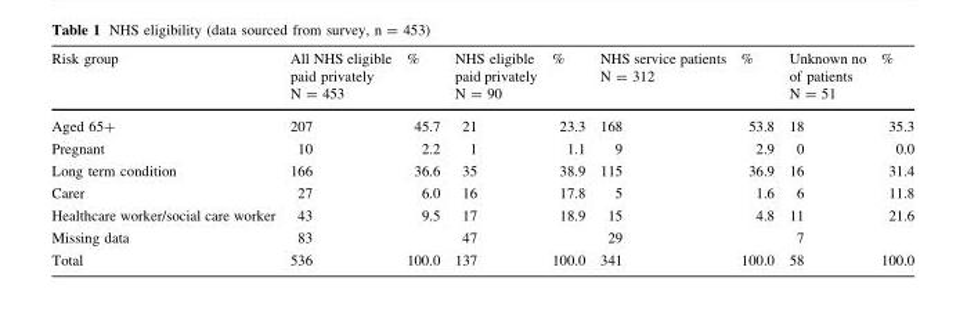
<table><thead><tr><td>Risk group</td><td>All NHS eligible paid privately N = 453</td><td>%</td><td>NHS eligible paid privately N = 90</td><td>%</td><td>NHS service patients N = 312</td><td>%</td><td>Unknown no of patients N = 51</td><td>%</td></tr></thead><tbody><tr><td>Aged 65+</td><td>207</td><td>45.7</td><td>21</td><td>23.3</td><td>168</td><td>53.8</td><td>18</td><td>35.3</td></tr><tr><td>Pregnant</td><td>10</td><td>2.2</td><td>1</td><td>1.1</td><td>9</td><td>2.9</td><td>0</td><td>0.0</td></tr><tr><td>Long term condition</td><td>166</td><td>36.6</td><td>35</td><td>38.9</td><td>115</td><td>36.9</td><td>16</td><td>31.4</td></tr><tr><td>Carer</td><td>27</td><td>6.0</td><td>16</td><td>17.8</td><td>5</td><td>1.6</td><td>6</td><td>11.8</td></tr><tr><td>Healthcare worker/social care worker</td><td>43</td><td>9.5</td><td>17</td><td>18.9</td><td>15</td><td>4.8</td><td>11</td><td>21.6</td></tr><tr><td>Missing data</td><td>83</td><td></td><td>47</td><td></td><td>29</td><td></td><td>7</td><td></td></tr><tr><td>Total</td><td>536</td><td>100.0</td><td>137</td><td>100.0</td><td>341</td><td>100.0</td><td>58</td><td>100.0</td></tr></tbody></table>